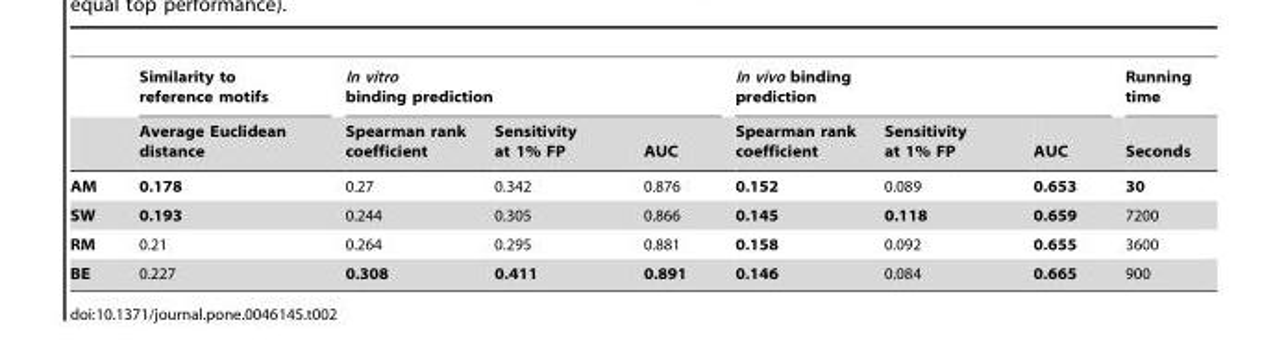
<table><thead><tr><td rowspan="2"></td><td rowspan="2">Similarity to reference motifs Average Euclidean distance</td><td colspan="3">In vitro binding prediction</td><td colspan="3">In vivo binding prediction</td><td rowspan="2">Running time Seconds</td></tr><tr><td>Spearman rank coefficient</td><td>Sensitivity at 1% FP</td><td>AUC</td><td>Spearman rank coefficient</td><td>Sensitivity at 1% FP</td><td>AUC</td></tr></thead><tbody><tr><td>AM</td><td>0.178</td><td>0.27</td><td>0.342</td><td>0.876</td><td>0.152</td><td>0.089</td><td>0.653</td><td>30</td></tr><tr><td>SW</td><td>0.193</td><td>0.244</td><td>0.305</td><td>0.866</td><td>0.145</td><td>0.118</td><td>0.659</td><td>7200</td></tr><tr><td>RM</td><td>0.21</td><td>0.264</td><td>0.295</td><td>0.881</td><td>0.158</td><td>0.092</td><td>0.655</td><td>3600</td></tr><tr><td>BE</td><td>0.227</td><td>0.308</td><td>0.411</td><td>0.891</td><td>0.146</td><td>0.084</td><td>0.665</td><td>900</td></tr></tbody></table>